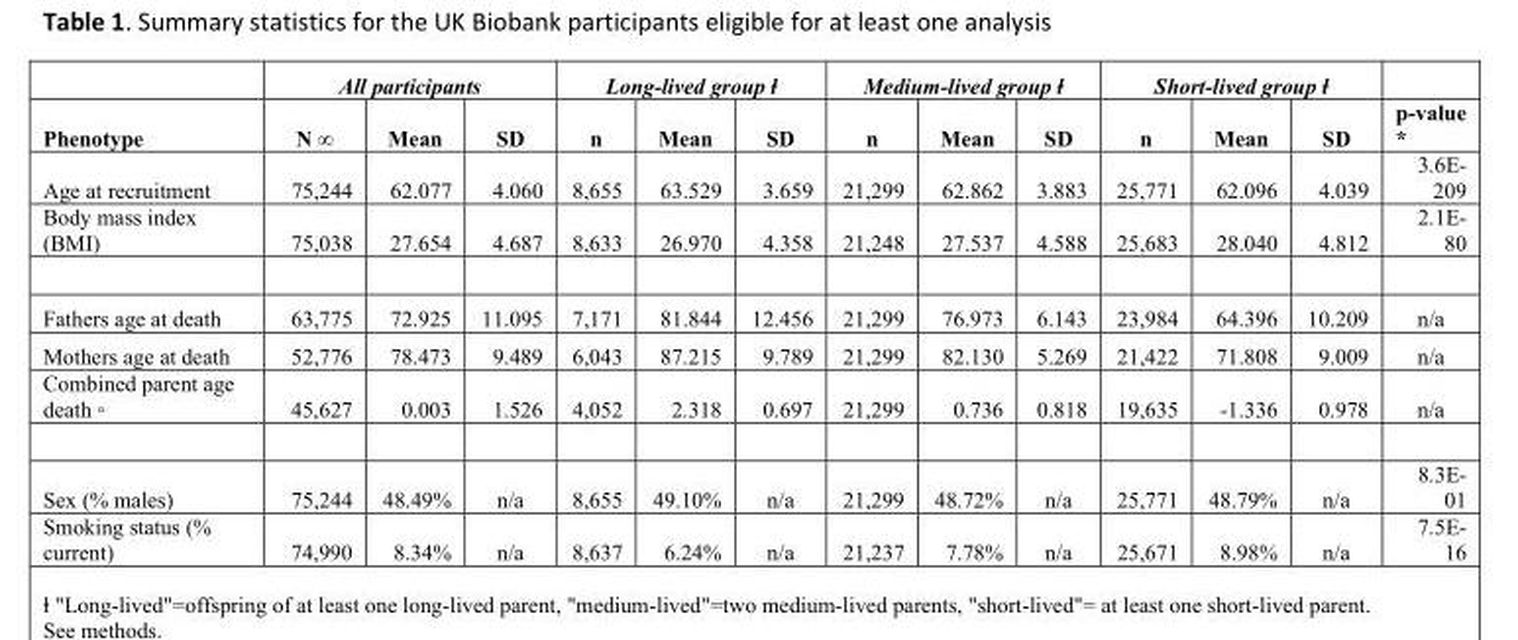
<table><thead><tr><td rowspan="2">Phenotype</td><td colspan="3">All participants</td><td colspan="3">Long-lived group ⱡ</td><td colspan="3">Medium-lived group ⱡ</td><td colspan="3">Short-lived group ⱡ</td><td rowspan="2">p-value *</td></tr><tr><td>N ∞</td><td>Mean</td><td>SD</td><td>n</td><td>Mean</td><td>SD</td><td>n</td><td>Mean</td><td>SD</td><td>n</td><td>Mean</td><td>SD</td></tr></thead><tbody><tr><td>Age at recruitment</td><td>75,244</td><td>62.077</td><td>4.060</td><td>8,655</td><td>63.529</td><td>3.659</td><td>21,299</td><td>62.862</td><td>3.883</td><td>25,771</td><td>62.096</td><td>4.039</td><td>3.6E- 209</td></tr><tr><td>Body mass index (BMI)</td><td>75,038</td><td>27.654</td><td>4.687</td><td>8,633</td><td>26.970</td><td>4.358</td><td>21,248</td><td>27.537</td><td>4.588</td><td>25,683</td><td>28.040</td><td>4.812</td><td>2.1E- 80</td></tr><tr><td>Fathers age at death</td><td>63,775</td><td>72.925</td><td>11.095</td><td>7,171</td><td>81.844</td><td>12.456</td><td>21,299</td><td>76.973</td><td>6.143</td><td>23,984</td><td>64.396</td><td>10.209</td><td>n/a</td></tr><tr><td>Mothers age at death</td><td>52,776</td><td>78.473</td><td>9.489</td><td>6,043</td><td>87.215</td><td>9.789</td><td>21,299</td><td>82.130</td><td>5.269</td><td>21,422</td><td>71.808</td><td>9.009</td><td>n/a</td></tr><tr><td>Combined parent age death ◦</td><td>45,627</td><td>0.003</td><td>1.526</td><td>4,052</td><td>2.318</td><td>0.697</td><td>21,299</td><td>0.736</td><td>0.818</td><td>19,635</td><td>-1.336</td><td>0.978</td><td>n/a</td></tr><tr><td>Sex (% males)</td><td>75,244</td><td>48.49%</td><td>n/a</td><td>8,655</td><td>49.10%</td><td>n/a</td><td>21,299</td><td>48.72%</td><td>n/a</td><td>25,771</td><td>48.79%</td><td>n/a</td><td>8.3E- 01</td></tr><tr><td>Smoking status (% current)</td><td>74,990</td><td>8.34%</td><td>n/a</td><td>8,637</td><td>6.24%</td><td>n/a</td><td>21,237</td><td>7.78%</td><td>n/a</td><td>25,671</td><td>8.98%</td><td>n/a</td><td>7.5E- 16</td></tr></tbody></table>